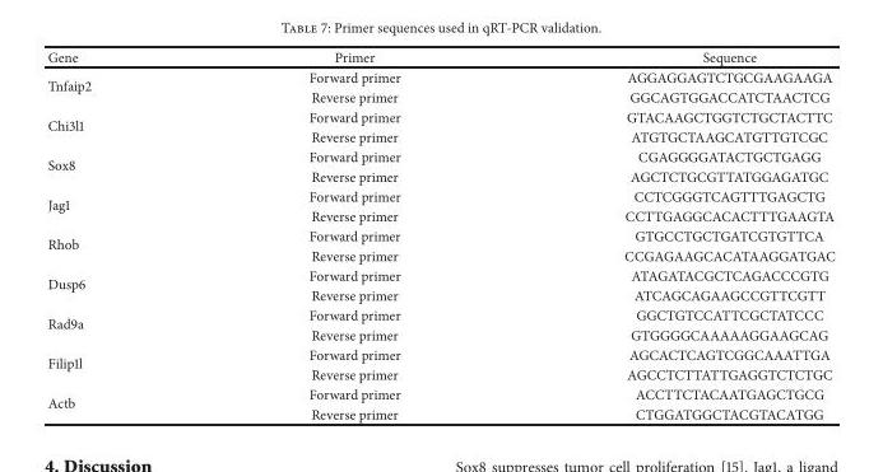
<table><thead><tr><td>Gene</td><td>Primer</td><td>Sequence</td></tr></thead><tbody><tr><td rowspan="2">Tnfaip2</td><td>Forward primer</td><td>AGGAGGAGTCTGCGAAGAAGA</td></tr><tr><td>Reverse primer</td><td>GGCAGTGGACCATCTAACTCG</td></tr><tr><td rowspan="2">Chi3l1</td><td>Forward primer</td><td>GTACAAGCTGGTCTGCTACTTC</td></tr><tr><td>Reverse primer</td><td>ATGTGCTAAGCATGTTGTCGC</td></tr><tr><td rowspan="2">Sox8</td><td>Forward primer</td><td>CGAGGGGATACTGCTGAGG</td></tr><tr><td>Reverse primer</td><td>AGCTCTGCGTTATGGAGATGC</td></tr><tr><td rowspan="2">Jag1</td><td>Forward primer</td><td>CCTCGGGTCAGTTTGAGCTG</td></tr><tr><td>Reverse primer</td><td>CCTTGAGGCACACTTTGAAGTA</td></tr><tr><td rowspan="2">Rhob</td><td>Forward primer</td><td>GTGCCTGCTGATCGTGTTCA</td></tr><tr><td>Reverse primer</td><td>CCGAGAAGCACATAAGGATGAC</td></tr><tr><td rowspan="2">Dusp6</td><td>Forward primer</td><td>ATAGATACGCTCAGACCCGTG</td></tr><tr><td>Reverse primer</td><td>ATCAGCAGAAGCCGTTCGTT</td></tr><tr><td rowspan="2">Rad9a</td><td>Forward primer</td><td>GGCTGTCCATTCGCTATCCC</td></tr><tr><td>Reverse primer</td><td>GTGGGGCAAAAAGGAAGCAG</td></tr><tr><td rowspan="2">Filip1l</td><td>Forward primer</td><td>AGCACTCAGTCGGCAAATTGA</td></tr><tr><td>Reverse primer</td><td>AGCCTCTTATTGAGGTCTCTGC</td></tr><tr><td rowspan="2">Actb</td><td>Forward primer</td><td>ACCTTCTACAATGAGCTGCG</td></tr><tr><td>Reverse primer</td><td>CTGGATGGCTACGTACATGG</td></tr></tbody></table>